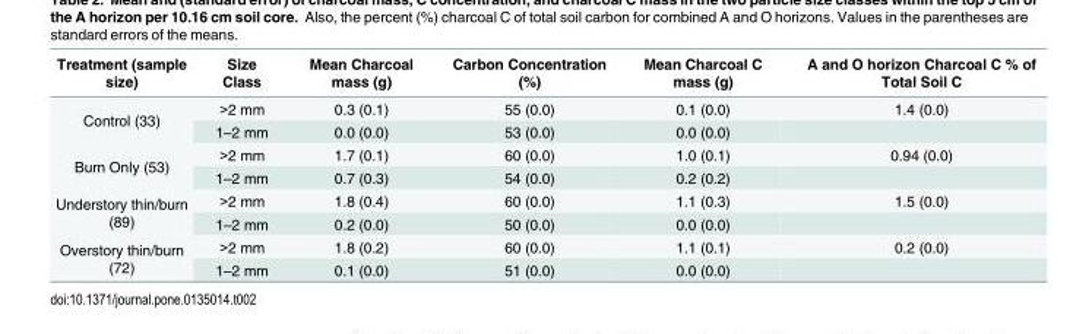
<table><thead><tr><td>Treatment (sample size)</td><td>Size Class</td><td>Mean Charcoal mass (g)</td><td>Carbon Concentration (%)</td><td>Mean Charcoal C mass (g)</td><td>A and O horizon Charcoal C % of Total Soil C</td></tr></thead><tbody><tr><td rowspan="2">Control (33)</td><td>&gt;2 mm</td><td>0.3 (0.1)</td><td>55 (0.0)</td><td>0.1 (0.0)</td><td>1.4 (0.0)</td></tr><tr><td>1–2 mm</td><td>0.0 (0.0)</td><td>53 (0.0)</td><td>0.0 (0.0)</td><td></td></tr><tr><td rowspan="2">Burn Only (53)</td><td>&gt;2 mm</td><td>1.7 (0.1)</td><td>60 (0.0)</td><td>1.0 (0.1)</td><td>0.94 (0.0)</td></tr><tr><td>1–2 mm</td><td>0.7 (0.3)</td><td>54 (0.0)</td><td>0.2 (0.2)</td><td></td></tr><tr><td rowspan="2">Understory thin/burn (89)</td><td>&gt;2 mm</td><td>1.8 (0.4)</td><td>60 (0.0)</td><td>1.1 (0.3)</td><td>1.5 (0.0)</td></tr><tr><td>1–2 mm</td><td>0.2 (0.0)</td><td>50 (0.0)</td><td>0.0 (0.0)</td><td></td></tr><tr><td rowspan="2">Overstory thin/burn (72)</td><td>&gt;2 mm</td><td>1.8 (0.2)</td><td>60 (0.0)</td><td>1.1 (0.1)</td><td>0.2 (0.0)</td></tr><tr><td>1–2 mm</td><td>0.1 (0.0)</td><td>51 (0.0)</td><td>0.0 (0.0)</td><td></td></tr></tbody></table>